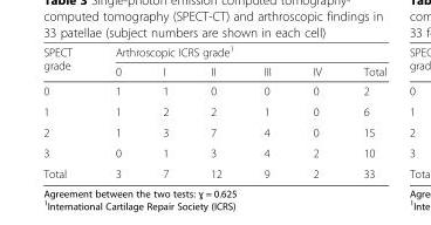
<table><thead><tr><td rowspan="2">SPECT grade</td><td colspan="6">Arthroscopic ICRS grade<sup>1</sup></td></tr><tr><td>0</td><td>I</td><td>II</td><td>III</td><td>IV</td><td>Total</td></tr></thead><tbody><tr><td>0</td><td>1</td><td>1</td><td>0</td><td>0</td><td>0</td><td>2</td></tr><tr><td>1</td><td>1</td><td>2</td><td>2</td><td>1</td><td>0</td><td>6</td></tr><tr><td>2</td><td>1</td><td>3</td><td>7</td><td>4</td><td>0</td><td>15</td></tr><tr><td>3</td><td>0</td><td>1</td><td>3</td><td>4</td><td>2</td><td>10</td></tr><tr><td>Total</td><td>3</td><td>7</td><td>12</td><td>9</td><td>2</td><td>33</td></tr></tbody></table>